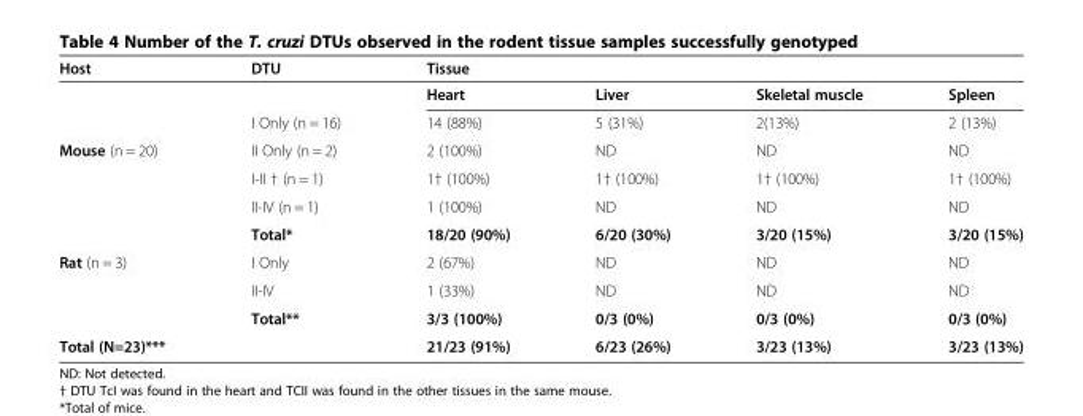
<table><thead><tr><td rowspan="2">Host</td><td rowspan="2">DTU</td><td colspan="4">Tissue</td></tr><tr><td>Heart</td><td>Liver</td><td>Skeletal muscle</td><td>Spleen</td></tr></thead><tbody><tr><td></td><td>I Only (n = 16)</td><td>14 (88%)</td><td>5 (31%)</td><td>2(13%)</td><td>2 (13%)</td></tr><tr><td rowspan="4">Mouse (n = 20)</td><td>II Only (n = 2)</td><td>2 (100%)</td><td>ND</td><td>ND</td><td>ND</td></tr><tr><td>I-II † (n = 1)</td><td>1† (100%)</td><td>1† (100%)</td><td>1† (100%)</td><td>1† (100%)</td></tr><tr><td>II-IV (n = 1)</td><td>1 (100%)</td><td>ND</td><td>ND</td><td>ND</td></tr><tr><td>Total*</td><td>18/20 (90%)</td><td>6/20 (30%)</td><td>3/20 (15%)</td><td>3/20 (15%)</td></tr><tr><td rowspan="3">Rat (n = 3)</td><td>I Only</td><td>2 (67%)</td><td>ND</td><td>ND</td><td>ND</td></tr><tr><td>II-IV</td><td>1 (33%)</td><td>ND</td><td>ND</td><td>ND</td></tr><tr><td>Total**</td><td>3/3 (100%)</td><td>0/3 (0%)</td><td>0/3 (0%)</td><td>0/3 (0%)</td></tr><tr><td>Total (N=23)***</td><td></td><td>21/23 (91%)</td><td>6/23 (26%)</td><td>3/23 (13%)</td><td>3/23 (13%)</td></tr></tbody></table>